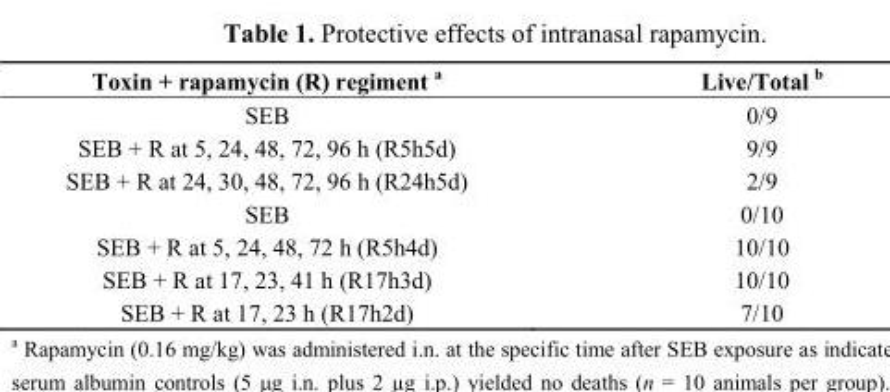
<table><thead><tr><td>Toxin + rapamycin (R) regiment <sup>a</sup></td><td>Live/Total <sup>b</sup></td></tr></thead><tbody><tr><td>SEB</td><td>0/9</td></tr><tr><td>SEB + R at 5, 24, 48, 72, 96 h (R5h5d)</td><td>9/9</td></tr><tr><td>SEB + R at 24, 30, 48, 72, 96 h (R24h5d)</td><td>2/9</td></tr><tr><td>SEB</td><td>0/10</td></tr><tr><td>SEB + R at 5, 24, 48, 72 h (R5h4d)</td><td>10/10</td></tr><tr><td>SEB + R at 17, 23, 41 h (R17h3d)</td><td>10/10</td></tr><tr><td>SEB + R at 17, 23 h (R17h2d)</td><td>7/10</td></tr></tbody></table>